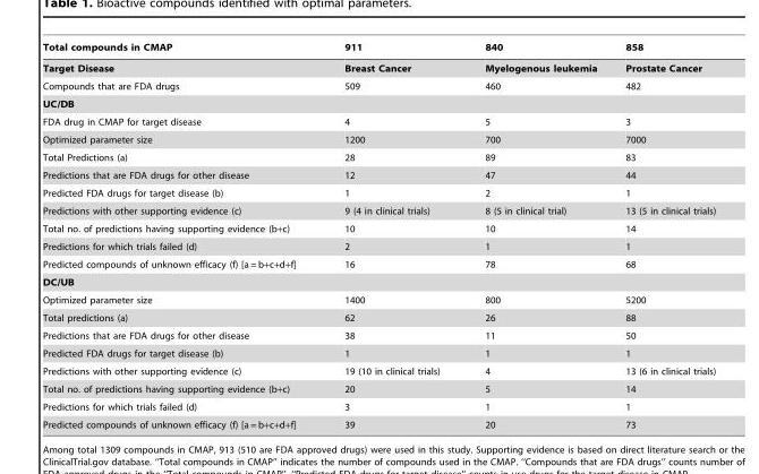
<table><thead><tr><td>Total compounds in CMAP</td><td>911</td><td>840</td><td>858</td></tr></thead><tbody><tr><td>Target Disease</td><td>Breast Cancer</td><td>Myelogenous leukemia</td><td>Prostate Cancer</td></tr><tr><td>Compounds that are FDA drugs</td><td>509</td><td>460</td><td>482</td></tr><tr><td colspan="4">UC/DB</td></tr><tr><td>FDA drug in CMAP for target disease</td><td>4</td><td>5</td><td>3</td></tr><tr><td>Optimized parameter size</td><td>1200</td><td>700</td><td>7000</td></tr><tr><td>Total Predictions (a)</td><td>28</td><td>89</td><td>83</td></tr><tr><td>Predictions that are FDA drugs for other disease</td><td>12</td><td>47</td><td>44</td></tr><tr><td>Predicted FDA drugs for target disease (b)</td><td>1</td><td>2</td><td>1</td></tr><tr><td>Predictions with other supporting evidence (c)</td><td>9 (4 in clinical trials)</td><td>8 (5 in clinical trial)</td><td>13 (5 in clinical trials)</td></tr><tr><td>Total no. of predictions having supporting evidence (b+c)</td><td>10</td><td>10</td><td>14</td></tr><tr><td>Predictions for which trials failed (d)</td><td>2</td><td>1</td><td>1</td></tr><tr><td>Predicted compounds of unknown efficacy (f) [a = b+c+d+f]</td><td>16</td><td>78</td><td>68</td></tr><tr><td colspan="4">DC/UB</td></tr><tr><td>Optimized parameter size</td><td>1400</td><td>800</td><td>5200</td></tr><tr><td>Total predictions (a)</td><td>62</td><td>26</td><td>88</td></tr><tr><td>Predictions that are FDA drugs for other disease</td><td>38</td><td>11</td><td>50</td></tr><tr><td>Predicted FDA drugs for target disease (b)</td><td>1</td><td>1</td><td>1</td></tr><tr><td>Predictions with other supporting evidence (c)</td><td>19 (10 in clinical trials)</td><td>4</td><td>13 (6 in clinical trials)</td></tr><tr><td>Total no. of predictions having supporting evidence (b+c)</td><td>20</td><td>5</td><td>14</td></tr><tr><td>Predictions for which trials failed (d)</td><td>3</td><td>1</td><td>1</td></tr><tr><td>Predicted compounds of unknown efficacy (f) [a = b+c+d+f]</td><td>39</td><td>20</td><td>73</td></tr></tbody></table>